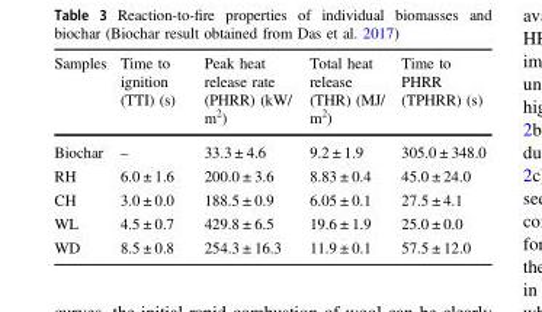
<table><thead><tr><td>Samples</td><td>Time to ignition (TTI) (s)</td><td>Peak heat release rate (PHRR) (kW/ m<sup>2</sup>)</td><td>Total heat release (THR) (MJ/ m<sup>2</sup>)</td><td>Time to PHRR (TPHRR) (s)</td></tr></thead><tbody><tr><td>Biochar</td><td>–</td><td>33.3 ± 4.6</td><td>9.2 ± 1.9</td><td>305.0 ± 348.0</td></tr><tr><td>RH</td><td>6.0 ± 1.6</td><td>200.0 ± 3.6</td><td>8.83 ± 0.4</td><td>45.0 ± 24.0</td></tr><tr><td>CH</td><td>3.0 ± 0.0</td><td>188.5 ± 0.9</td><td>6.05 ± 0.1</td><td>27.5 ± 4.1</td></tr><tr><td>WL</td><td>4.5 ± 0.7</td><td>429.8 ± 6.5</td><td>19.6 ± 1.9</td><td>25.0 ± 0.0</td></tr><tr><td>WD</td><td>8.5 ± 0.8</td><td>254.3 ± 16.3</td><td>11.9 ± 0.1</td><td>57.5 ± 12.0</td></tr></tbody></table>